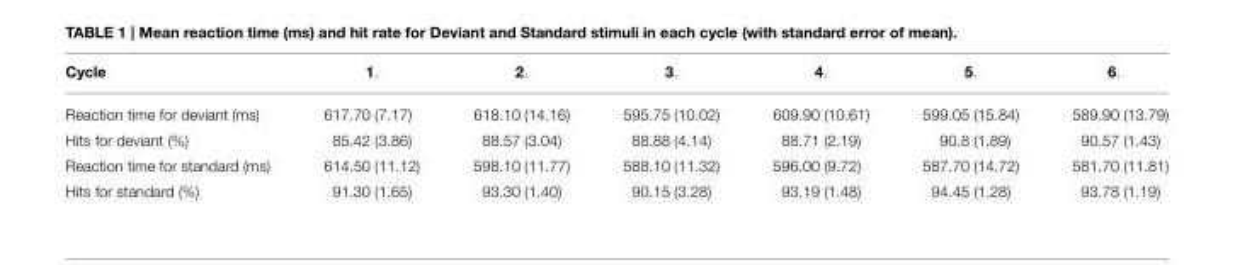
<table><thead><tr><td>Cycle</td><td>1.</td><td>2.</td><td>3.</td><td>4.</td><td>5.</td><td>6.</td></tr></thead><tbody><tr><td>Reaction time for deviant (ms)</td><td>617.70 (7.17)</td><td>618.10 (14.16)</td><td>595.75 (10.02)</td><td>609.90 (10.61)</td><td>599.05 (15.84)</td><td>589.90 (13.79)</td></tr><tr><td>Hits for deviant (%)</td><td>85.42 (3.86)</td><td>88.57 (3.04)</td><td>88.88 (4.14)</td><td>88.71 (2.19)</td><td>90.8 (1.89)</td><td>90.57 (1.43)</td></tr><tr><td>Reaction time for standard (ms)</td><td>614.50 (11.12)</td><td>598.10 (11.77)</td><td>588.10 (11.32)</td><td>596.00 (9.72)</td><td>587.70 (14.72)</td><td>581.70 (11.81)</td></tr><tr><td>Hits for standard (%)</td><td>91.30 (1.65)</td><td>93.30 (1.40)</td><td>90.15 (3.28)</td><td>93.19 (1.48)</td><td>94.45 (1.28)</td><td>93.78 (1.19)</td></tr></tbody></table>